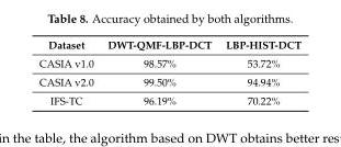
<table><thead><tr><td>Dataset</td><td>DWT-QMF-LBP-DCT</td><td>LBP-HIST-DCT</td></tr></thead><tbody><tr><td>CASIA v1.0</td><td>98.57%</td><td>53.72%</td></tr><tr><td>CASIA v2.0</td><td>99.50%</td><td>94.94%</td></tr><tr><td>IFS-TC</td><td>96.19%</td><td>70.22%</td></tr></tbody></table>